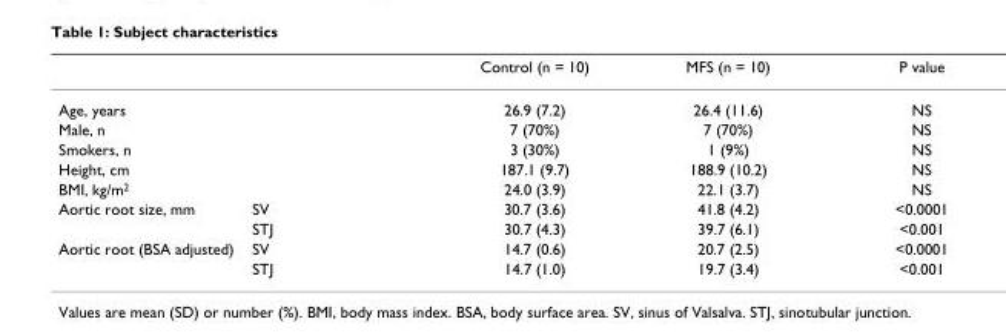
<table><thead><tr><td></td><td></td><td>Control (n = 10)</td><td>MFS (n = 10)</td><td>P value</td></tr></thead><tbody><tr><td>Age, years</td><td></td><td>26.9 (7.2)</td><td>26.4 (11.6)</td><td>NS</td></tr><tr><td>Male, n</td><td></td><td>7 (70%)</td><td>7 (70%)</td><td>NS</td></tr><tr><td>Smokers, n</td><td></td><td>3 (30%)</td><td>1 (9%)</td><td>NS</td></tr><tr><td>Height, cm</td><td></td><td>187.1 (9.7)</td><td>188.9 (10.2)</td><td>NS</td></tr><tr><td>BMI, kg/m<sup>2</sup></td><td></td><td>24.0 (3.9)</td><td>22.1 (3.7)</td><td>NS</td></tr><tr><td rowspan="2">Aortic root size, mm</td><td>SV</td><td>30.7 (3.6)</td><td>41.8 (4.2)</td><td>&lt;0.0001</td></tr><tr><td>STJ</td><td>30.7 (4.3)</td><td>39.7 (6.1)</td><td>&lt;0.001</td></tr><tr><td rowspan="2">Aortic root (BSA adjusted)</td><td>SV</td><td>14.7 (0.6)</td><td>20.7 (2.5)</td><td>&lt;0.0001</td></tr><tr><td>STJ</td><td>14.7 (1.0)</td><td>19.7 (3.4)</td><td>&lt;0.001</td></tr></tbody></table>